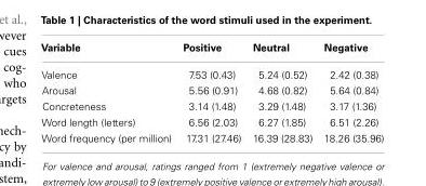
<table><thead><tr><td>Variable</td><td>Positive</td><td>Neutral</td><td>Negative</td></tr></thead><tbody><tr><td>Valence</td><td>7.53 (0.43)</td><td>5.24 (0.52)</td><td>2.42 (0.38)</td></tr><tr><td>Arousal</td><td>5.56 (0.91)</td><td>4.68 (0.82)</td><td>5.64 (0.84)</td></tr><tr><td>Concreteness</td><td>3.14 (1.48)</td><td>3.29 (1.48)</td><td>3.17 (1.36)</td></tr><tr><td>Word length (letters)</td><td>6.56 (2.03)</td><td>6.27 (1.85)</td><td>6.51 (2.26)</td></tr><tr><td>Word frequency (per million)</td><td>17.31 (27.46)</td><td>16.39 (28.83)</td><td>18.26 (35.96)</td></tr></tbody></table>